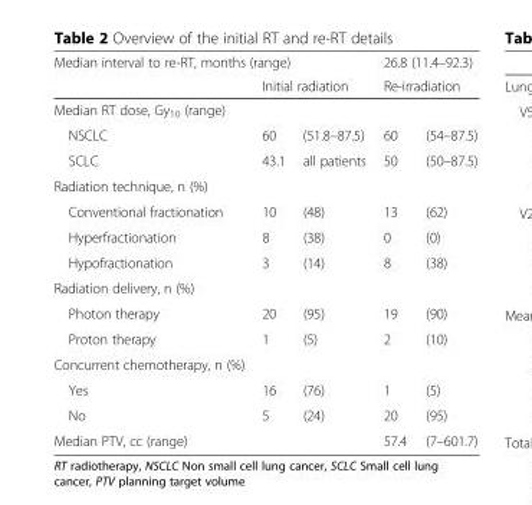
<table><thead><tr><td colspan="3">Median interval to re-RT, months (range)</td><td rowspan="2" colspan="2">26.8 (11.4–92.3) Re-irradiation</td></tr><tr><td rowspan="2">Median RT dose, Gy<sub>10</sub> (range)</td><td colspan="2">Initial radiation</td></tr><tr><td></td><td></td><td></td><td></td></tr></thead><tbody><tr><td>NSCLC</td><td>60</td><td>(51.8–87.5)</td><td>60</td><td>(54–87.5)</td></tr><tr><td>SCLC</td><td>43.1</td><td>all patients</td><td>50</td><td>(50–87.5)</td></tr><tr><td colspan="5">Radiation technique, n (%)</td></tr><tr><td>Conventional fractionation</td><td>10</td><td>(48)</td><td>13</td><td>(62)</td></tr><tr><td>Hyperfractionation</td><td>8</td><td>(38)</td><td>0</td><td>(0)</td></tr><tr><td>Hypofractionation</td><td>3</td><td>(14)</td><td>8</td><td>(38)</td></tr><tr><td colspan="5">Radiation delivery, n (%)</td></tr><tr><td>Photon therapy</td><td>20</td><td>(95)</td><td>19</td><td>(90)</td></tr><tr><td>Proton therapy</td><td>1</td><td>(5)</td><td>2</td><td>(10)</td></tr><tr><td colspan="5">Concurrent chemotherapy, n (%)</td></tr><tr><td>Yes</td><td>16</td><td>(76)</td><td>1</td><td>(5)</td></tr><tr><td>No</td><td>5</td><td>(24)</td><td>20</td><td>(95)</td></tr><tr><td>Median PTV, cc (range)</td><td></td><td></td><td>57.4</td><td>(7–601.7)</td></tr></tbody></table>